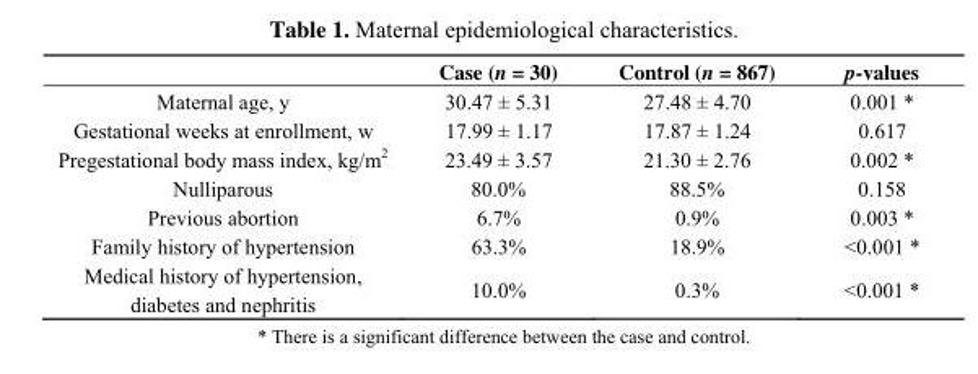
<table><thead><tr><td></td><td>Case (n = 30)</td><td>Control (n = 867)</td><td>p-values</td></tr></thead><tbody><tr><td>Maternal age, y</td><td>30.47 ± 5.31</td><td>27.48 ± 4.70</td><td>0.001 *</td></tr><tr><td>Gestational weeks at enrollment, w</td><td>17.99 ± 1.17</td><td>17.87 ± 1.24</td><td>0.617</td></tr><tr><td>Pregestational body mass index, kg/m<sup>2</sup></td><td>23.49 ± 3.57</td><td>21.30 ± 2.76</td><td>0.002 *</td></tr><tr><td>Nulliparous</td><td>80.0%</td><td>88.5%</td><td>0.158</td></tr><tr><td>Previous abortion</td><td>6.7%</td><td>0.9%</td><td>0.003 *</td></tr><tr><td>Family history of hypertension</td><td>63.3%</td><td>18.9%</td><td>&lt;0.001 *</td></tr><tr><td>Medical history of hypertension, diabetes and nephritis</td><td>10.0%</td><td>0.3%</td><td>&lt;0.001 *</td></tr></tbody></table>